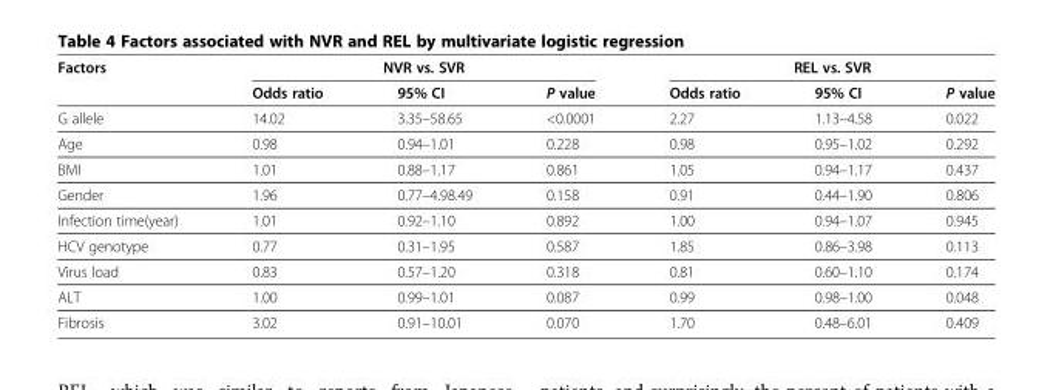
<table><thead><tr><td rowspan="2">Factors</td><td colspan="3">NVR vs. SVR</td><td colspan="3">REL vs. SVR</td></tr><tr><td>Odds ratio</td><td>95% CI</td><td>P value</td><td>Odds ratio</td><td>95% CI</td><td>P value</td></tr></thead><tbody><tr><td>G allele</td><td>14.02</td><td>3.35–58.65</td><td>&lt;0.0001</td><td>2.27</td><td>1.13–4.58</td><td>0.022</td></tr><tr><td>Age</td><td>0.98</td><td>0.94–1.01</td><td>0.228</td><td>0.98</td><td>0.95–1.02</td><td>0.292</td></tr><tr><td>BMI</td><td>1.01</td><td>0.88–1.17</td><td>0.861</td><td>1.05</td><td>0.94–1.17</td><td>0.437</td></tr><tr><td>Gender</td><td>1.96</td><td>0.77–4.98.49</td><td>0.158</td><td>0.91</td><td>0.44–1.90</td><td>0.806</td></tr><tr><td>Infection time(year)</td><td>1.01</td><td>0.92–1.10</td><td>0.892</td><td>1.00</td><td>0.94–1.07</td><td>0.945</td></tr><tr><td>HCV genotype</td><td>0.77</td><td>0.31–1.95</td><td>0.587</td><td>1.85</td><td>0.86–3.98</td><td>0.113</td></tr><tr><td>Virus load</td><td>0.83</td><td>0.57–1.20</td><td>0.318</td><td>0.81</td><td>0.60–1.10</td><td>0.174</td></tr><tr><td>ALT</td><td>1.00</td><td>0.99–1.01</td><td>0.087</td><td>0.99</td><td>0.98–1.00</td><td>0.048</td></tr><tr><td>Fibrosis</td><td>3.02</td><td>0.91–10.01</td><td>0.070</td><td>1.70</td><td>0.48–6.01</td><td>0.409</td></tr></tbody></table>